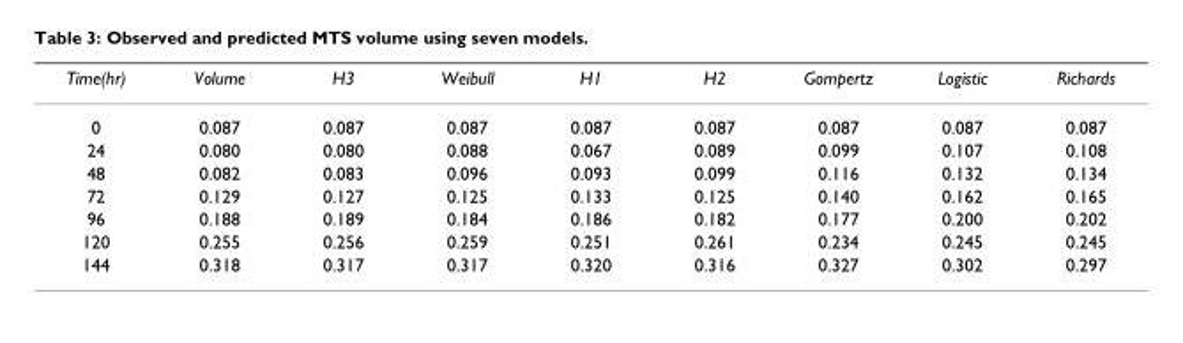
<table><thead><tr><td>Time(hr)</td><td>Volume</td><td>H3</td><td>Weibull</td><td>H1</td><td>H2</td><td>Gompertz</td><td>Logistic</td><td>Richards</td></tr></thead><tbody><tr><td>0</td><td>0.087</td><td>0.087</td><td>0.087</td><td>0.087</td><td>0.087</td><td>0.087</td><td>0.087</td><td>0.087</td></tr><tr><td>24</td><td>0.080</td><td>0.080</td><td>0.088</td><td>0.067</td><td>0.089</td><td>0.099</td><td>0.107</td><td>0.108</td></tr><tr><td>48</td><td>0.082</td><td>0.083</td><td>0.096</td><td>0.093</td><td>0.099</td><td>0.116</td><td>0.132</td><td>0.134</td></tr><tr><td>72</td><td>0.129</td><td>0.127</td><td>0.125</td><td>0.133</td><td>0.125</td><td>0.140</td><td>0.162</td><td>0.165</td></tr><tr><td>96</td><td>0.188</td><td>0.189</td><td>0.184</td><td>0.186</td><td>0.182</td><td>0.177</td><td>0.200</td><td>0.202</td></tr><tr><td>120</td><td>0.255</td><td>0.256</td><td>0.259</td><td>0.251</td><td>0.261</td><td>0.234</td><td>0.245</td><td>0.245</td></tr><tr><td>144</td><td>0.318</td><td>0.317</td><td>0.317</td><td>0.320</td><td>0.316</td><td>0.327</td><td>0.302</td><td>0.297</td></tr></tbody></table>